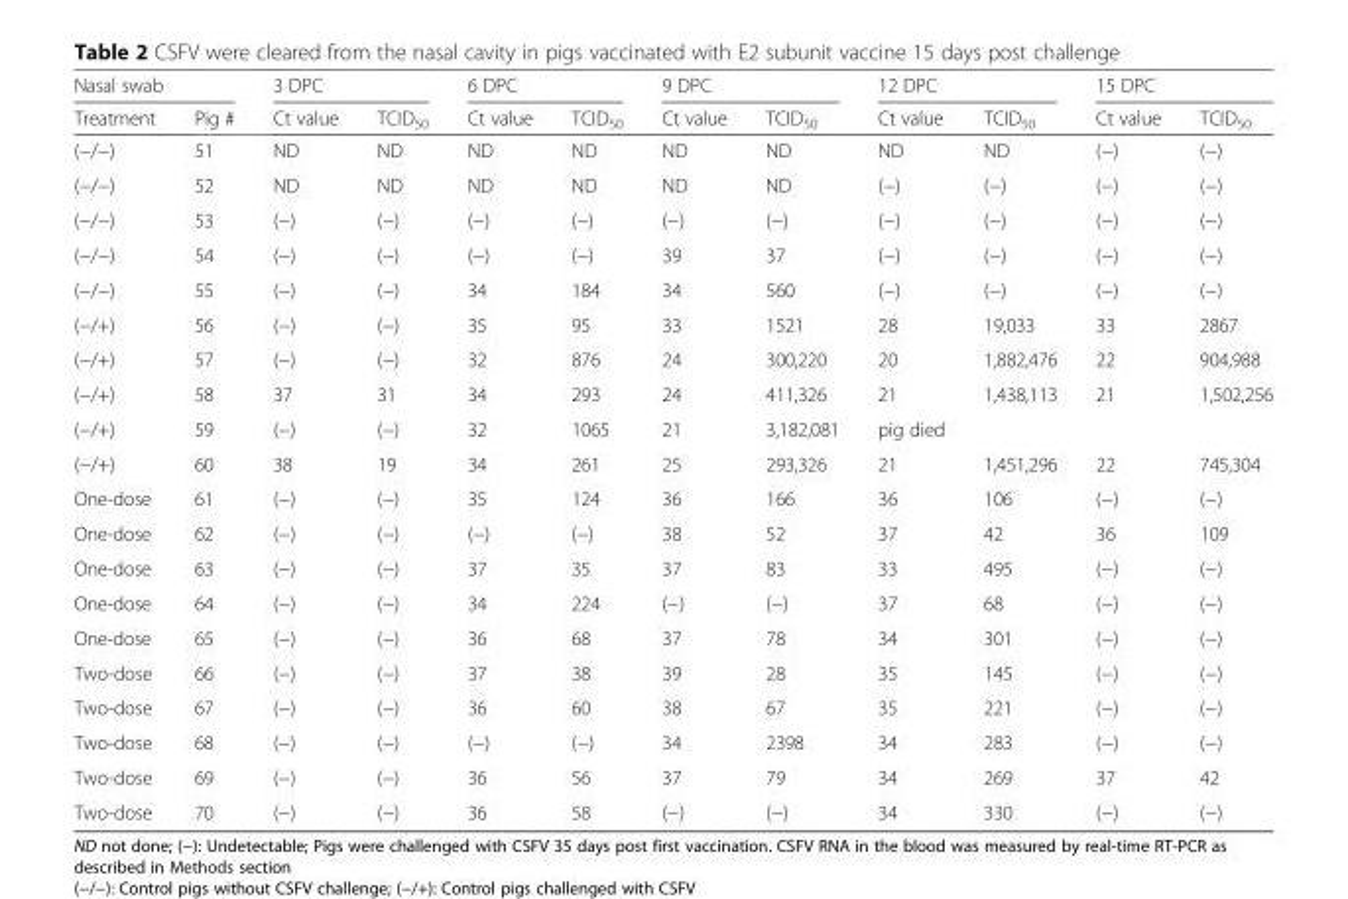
<table><thead><tr><td colspan="2">Nasal swab</td><td colspan="2">3 DPC</td><td colspan="2">6 DPC</td><td colspan="2">9 DPC</td><td colspan="2">12 DPC</td><td colspan="2">15 DPC</td></tr><tr><td>Treatment</td><td>Pig #</td><td>Ct value</td><td>TCID<sub>50</sub></td><td>Ct value</td><td>TCID<sub>50</sub></td><td>Ct value</td><td>TCID<sub>50</sub></td><td>Ct value</td><td>TCID<sub>50</sub></td><td>Ct value</td><td>TCID<sub>50</sub></td></tr></thead><tbody><tr><td>(−/−)</td><td>51</td><td>ND</td><td>ND</td><td>ND</td><td>ND</td><td>ND</td><td>ND</td><td>ND</td><td>ND</td><td>(−)</td><td>(−)</td></tr><tr><td>(−/−)</td><td>52</td><td>ND</td><td>ND</td><td>ND</td><td>ND</td><td>ND</td><td>ND</td><td>(−)</td><td>(−)</td><td>(−)</td><td>(−)</td></tr><tr><td>(−/−)</td><td>53</td><td>(−)</td><td>(−)</td><td>(−)</td><td>(−)</td><td>(−)</td><td>(−)</td><td>(−)</td><td>(−)</td><td>(−)</td><td>(−)</td></tr><tr><td>(−/−)</td><td>54</td><td>(−)</td><td>(−)</td><td>(−)</td><td>(−)</td><td>39</td><td>37</td><td>(−)</td><td>(−)</td><td>(−)</td><td>(−)</td></tr><tr><td>(−/−)</td><td>55</td><td>(−)</td><td>(−)</td><td>34</td><td>184</td><td>34</td><td>560</td><td>(−)</td><td>(−)</td><td>(−)</td><td>(−)</td></tr><tr><td>(−/+)</td><td>56</td><td>(−)</td><td>(−)</td><td>35</td><td>95</td><td>33</td><td>1521</td><td>28</td><td>19,033</td><td>33</td><td>2867</td></tr><tr><td>(−/+)</td><td>57</td><td>(−)</td><td>(−)</td><td>32</td><td>876</td><td>24</td><td>300,220</td><td>20</td><td>1,882,476</td><td>22</td><td>904,988</td></tr><tr><td>(−/+)</td><td>58</td><td>37</td><td>31</td><td>34</td><td>293</td><td>24</td><td>411,326</td><td>21</td><td>1,438,113</td><td>21</td><td>1,502,256</td></tr><tr><td>(−/+)</td><td>59</td><td>(−)</td><td>(−)</td><td>32</td><td>1065</td><td>21</td><td>3,182,081</td><td>pig died</td><td></td><td></td><td></td></tr><tr><td>(−/+)</td><td>60</td><td>38</td><td>19</td><td>34</td><td>261</td><td>25</td><td>293,326</td><td>21</td><td>1,451,296</td><td>22</td><td>745,304</td></tr><tr><td>One-dose</td><td>61</td><td>(−)</td><td>(−)</td><td>35</td><td>124</td><td>36</td><td>166</td><td>36</td><td>106</td><td>(−)</td><td>(−)</td></tr><tr><td>One-dose</td><td>62</td><td>(−)</td><td>(−)</td><td>(−)</td><td>(−)</td><td>38</td><td>52</td><td>37</td><td>42</td><td>36</td><td>109</td></tr><tr><td>One-dose</td><td>63</td><td>(−)</td><td>(−)</td><td>37</td><td>35</td><td>37</td><td>83</td><td>33</td><td>495</td><td>(−)</td><td>(−)</td></tr><tr><td>One-dose</td><td>64</td><td>(−)</td><td>(−)</td><td>34</td><td>224</td><td>(−)</td><td>(−)</td><td>37</td><td>68</td><td>(−)</td><td>(−)</td></tr><tr><td>One-dose</td><td>65</td><td>(−)</td><td>(−)</td><td>36</td><td>68</td><td>37</td><td>78</td><td>34</td><td>301</td><td>(−)</td><td>(−)</td></tr><tr><td>Two-dose</td><td>66</td><td>(−)</td><td>(−)</td><td>37</td><td>38</td><td>39</td><td>28</td><td>35</td><td>145</td><td>(−)</td><td>(−)</td></tr><tr><td>Two-dose</td><td>67</td><td>(−)</td><td>(−)</td><td>36</td><td>60</td><td>38</td><td>67</td><td>35</td><td>221</td><td>(−)</td><td>(−)</td></tr><tr><td>Two-dose</td><td>68</td><td>(−)</td><td>(−)</td><td>(−)</td><td>(−)</td><td>34</td><td>2398</td><td>34</td><td>283</td><td>(−)</td><td>(−)</td></tr><tr><td>Two-dose</td><td>69</td><td>(−)</td><td>(−)</td><td>36</td><td>56</td><td>37</td><td>79</td><td>34</td><td>269</td><td>37</td><td>42</td></tr><tr><td>Two-dose</td><td>70</td><td>(−)</td><td>(−)</td><td>36</td><td>58</td><td>(−)</td><td>(−)</td><td>34</td><td>330</td><td>(−)</td><td>(−)</td></tr></tbody></table>